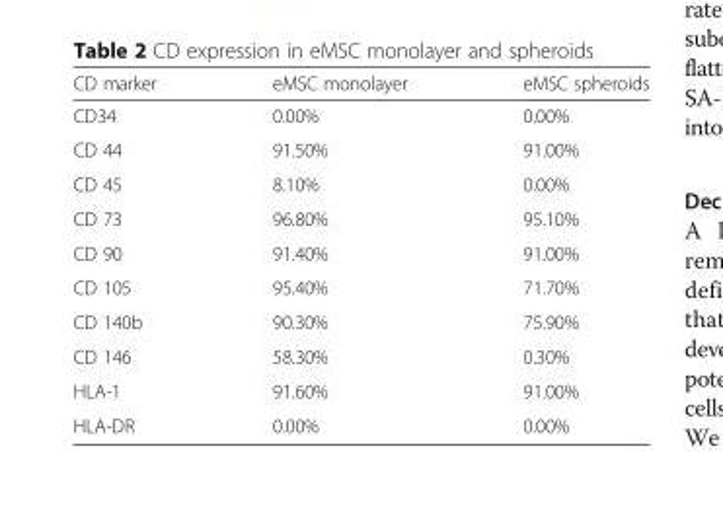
<table><thead><tr><td>CD marker</td><td>eMSC monolayer</td><td>eMSC spheroids</td></tr></thead><tbody><tr><td>CD34</td><td>0.00%</td><td>0.00%</td></tr><tr><td>CD 44</td><td>91.50%</td><td>91.00%</td></tr><tr><td>CD 45</td><td>8.10%</td><td>0.00%</td></tr><tr><td>CD 73</td><td>96.80%</td><td>95.10%</td></tr><tr><td>CD 90</td><td>91.40%</td><td>91.00%</td></tr><tr><td>CD 105</td><td>95.40%</td><td>71.70%</td></tr><tr><td>CD 140b</td><td>90.30%</td><td>75.90%</td></tr><tr><td>CD 146</td><td>58.30%</td><td>0.30%</td></tr><tr><td>HLA-1</td><td>91.60%</td><td>91.00%</td></tr><tr><td>HLA-DR</td><td>0.00%</td><td>0.00%</td></tr></tbody></table>